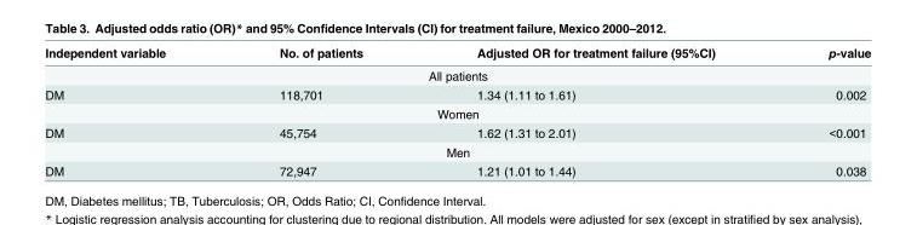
<table><thead><tr><td>Independent variable</td><td>No. of patients</td><td>Adjusted OR for treatment failure (95%CI)</td><td>p-value</td></tr></thead><tbody><tr><td colspan="4">All patients</td></tr><tr><td>DM</td><td>118,701</td><td>1.34 (1.11 to 1.61)</td><td>0.002</td></tr><tr><td colspan="4">Women</td></tr><tr><td>DM</td><td>45,754</td><td>1.62 (1.31 to 2.01)</td><td>&lt;0.001</td></tr><tr><td colspan="4">Men</td></tr><tr><td>DM</td><td>72,947</td><td>1.21 (1.01 to 1.44)</td><td>0.038</td></tr></tbody></table>